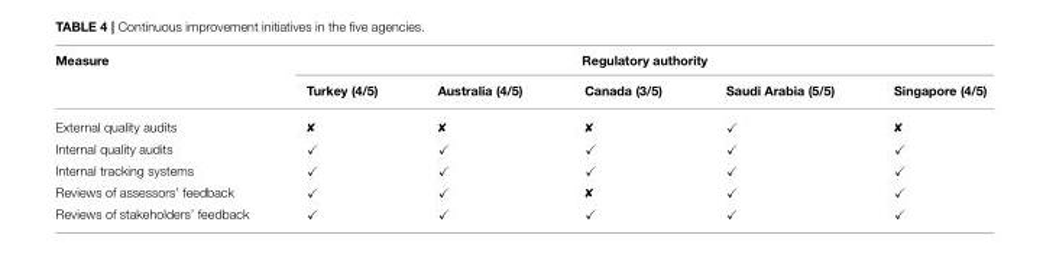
<table><thead><tr><td rowspan="2">Measure</td><td colspan="5">Regulatory authority</td></tr><tr><td>Turkey (4/5)</td><td>Australia (4/5)</td><td>Canada (3/5)</td><td>Saudi Arabia (5/5)</td><td>Singapore (4/5)</td></tr></thead><tbody><tr><td>External quality audits</td><td></td><td></td><td></td><td>✓</td><td></td></tr><tr><td>Internal quality audits</td><td>✓</td><td>✓</td><td>✓</td><td>✓</td><td>✓</td></tr><tr><td>Internal tracking systems</td><td>✓</td><td>✓</td><td>✓</td><td>✓</td><td>✓</td></tr><tr><td>Reviews of assessors’ feedback</td><td>✓</td><td>✓</td><td></td><td>✓</td><td>✓</td></tr><tr><td>Reviews of stakeholders’ feedback</td><td>✓</td><td>✓</td><td>✓</td><td>✓</td><td>✓</td></tr></tbody></table>